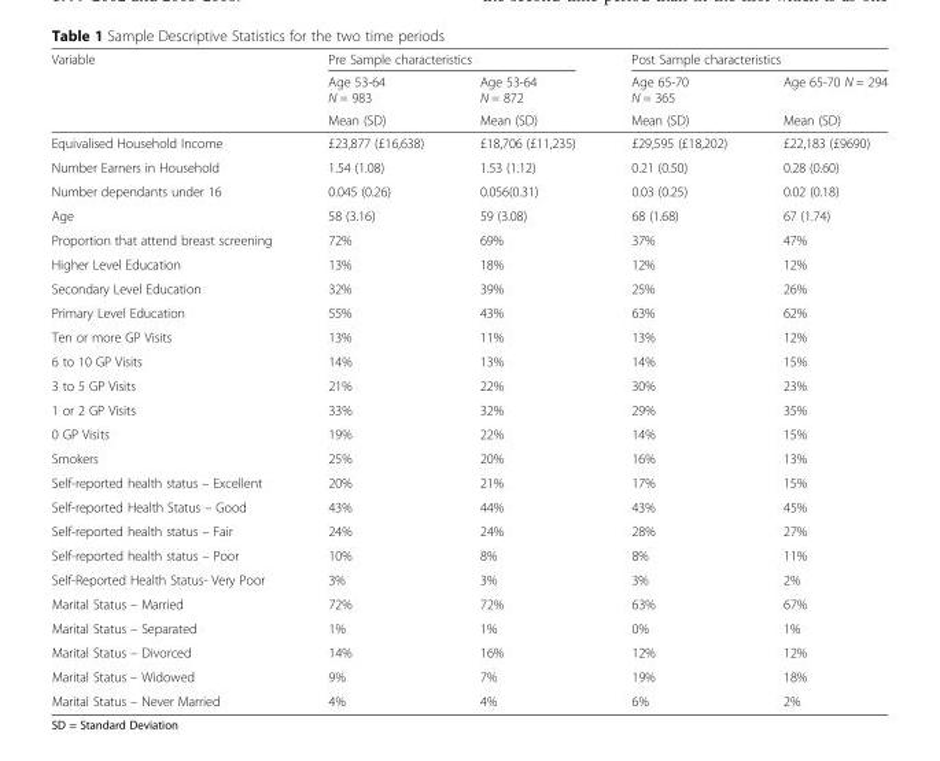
<table><thead><tr><td rowspan="3">Variable</td><td colspan="2">Pre Sample characteristics</td><td colspan="2">Post Sample characteristics</td></tr><tr><td rowspan="2">Age 53-64 N = 983 Mean (SD)</td><td rowspan="2">Age 53-64 N = 872 Mean (SD)</td><td rowspan="2">Age 65-70 N = 365 Mean (SD)</td><td rowspan="2">Age 65-70 N = 294 Mean (SD)</td></tr><tr></tr></thead><tbody><tr><td>Equivalised Household Income</td><td>£23,877 (£16,638)</td><td>£18,706 (£11,235)</td><td>£29,595 (£18,202)</td><td>£22,183 (£9690)</td></tr><tr><td>Number Earners in Household</td><td>1.54 (1.08)</td><td>1.53 (1.12)</td><td>0.21 (0.50)</td><td>0.28 (0.60)</td></tr><tr><td>Number dependants under 16</td><td>0.045 (0.26)</td><td>0.056(0.31)</td><td>0.03 (0.25)</td><td>0.02 (0.18)</td></tr><tr><td>Age</td><td>58 (3.16)</td><td>59 (3.08)</td><td>68 (1.68)</td><td>67 (1.74)</td></tr><tr><td>Proportion that attend breast screening</td><td>72%</td><td>69%</td><td>37%</td><td>47%</td></tr><tr><td>Higher Level Education</td><td>13%</td><td>18%</td><td>12%</td><td>12%</td></tr><tr><td>Secondary Level Education</td><td>32%</td><td>39%</td><td>25%</td><td>26%</td></tr><tr><td>Primary Level Education</td><td>55%</td><td>43%</td><td>63%</td><td>62%</td></tr><tr><td>Ten or more GP Visits</td><td>13%</td><td>11%</td><td>13%</td><td>12%</td></tr><tr><td>6 to 10 GP Visits</td><td>14%</td><td>13%</td><td>14%</td><td>15%</td></tr><tr><td>3 to 5 GP Visits</td><td>21%</td><td>22%</td><td>30%</td><td>23%</td></tr><tr><td>1 or 2 GP Visits</td><td>33%</td><td>32%</td><td>29%</td><td>35%</td></tr><tr><td>0 GP Visits</td><td>19%</td><td>22%</td><td>14%</td><td>15%</td></tr><tr><td>Smokers</td><td>25%</td><td>20%</td><td>16%</td><td>13%</td></tr><tr><td>Self-reported health status – Excellent</td><td>20%</td><td>21%</td><td>17%</td><td>15%</td></tr><tr><td>Self-reported Health Status – Good</td><td>43%</td><td>44%</td><td>43%</td><td>45%</td></tr><tr><td>Self-reported health status – Fair</td><td>24%</td><td>24%</td><td>28%</td><td>27%</td></tr><tr><td>Self-reported health status – Poor</td><td>10%</td><td>8%</td><td>8%</td><td>11%</td></tr><tr><td>Self-Reported Health Status- Very Poor</td><td>3%</td><td>3%</td><td>3%</td><td>2%</td></tr><tr><td>Marital Status – Married</td><td>72%</td><td>72%</td><td>63%</td><td>67%</td></tr><tr><td>Marital Status – Separated</td><td>1%</td><td>1%</td><td>0%</td><td>1%</td></tr><tr><td>Marital Status – Divorced</td><td>14%</td><td>16%</td><td>12%</td><td>12%</td></tr><tr><td>Marital Status – Widowed</td><td>9%</td><td>7%</td><td>19%</td><td>18%</td></tr><tr><td>Marital Status – Never Married</td><td>4%</td><td>4%</td><td>6%</td><td>2%</td></tr></tbody></table>